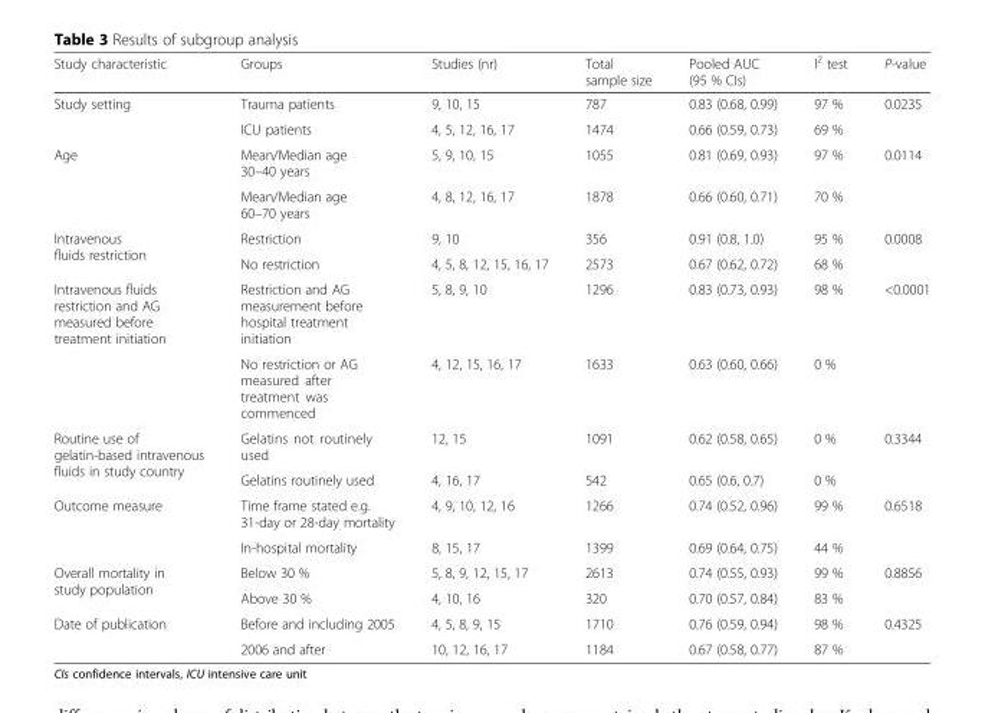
<table><thead><tr><td>Study characteristic</td><td>Groups</td><td>Studies (nr)</td><td>Total sample size</td><td>Pooled AUC (95 % CIs)</td><td>I<sup>2</sup> test</td><td>P-value</td></tr></thead><tbody><tr><td rowspan="2">Study setting</td><td>Trauma patients</td><td>9, 10, 15</td><td>787</td><td>0.83 (0.68, 0.99)</td><td>97 %</td><td rowspan="2">0.0235</td></tr><tr><td>ICU patients</td><td>4, 5, 12, 16, 17</td><td>1474</td><td>0.66 (0.59, 0.73)</td><td>69 %</td></tr><tr><td rowspan="2">Age</td><td>Mean/Median age 30–40 years</td><td>5, 9, 10, 15</td><td>1055</td><td>0.81 (0.69, 0.93)</td><td>97 %</td><td rowspan="2">0.0114</td></tr><tr><td>Mean/Median age 60–70 years</td><td>4, 8, 12, 16, 17</td><td>1878</td><td>0.66 (0.60, 0.71)</td><td>70 %</td></tr><tr><td rowspan="2">Intravenous fluids restriction</td><td>Restriction</td><td>9, 10</td><td>356</td><td>0.91 (0.8, 1.0)</td><td>95 %</td><td rowspan="2">0.0008</td></tr><tr><td>No restriction</td><td>4, 5, 8, 12, 15, 16, 17</td><td>2573</td><td>0.67 (0.62, 0.72)</td><td>68 %</td></tr><tr><td rowspan="2">Intravenous fluids restriction and AG measured before treatment initiation</td><td>Restriction and AG measurement before hospital treatment initiation</td><td>5, 8, 9, 10</td><td>1296</td><td>0.83 (0.73, 0.93)</td><td>98 %</td><td rowspan="2">&lt;0.0001</td></tr><tr><td>No restriction or AG measured after treatment was commenced</td><td>4, 12, 15, 16, 17</td><td>1633</td><td>0.63 (0.60, 0.66)</td><td>0 %</td></tr><tr><td rowspan="2">Routine use of gelatin-based intravenous fluids in study country</td><td>Gelatins not routinely used</td><td>12, 15</td><td>1091</td><td>0.62 (0.58, 0.65)</td><td>0 %</td><td rowspan="2">0.3344</td></tr><tr><td>Gelatins routinely used</td><td>4, 16, 17</td><td>542</td><td>0.65 (0.6, 0.7)</td><td>0 %</td></tr><tr><td rowspan="2">Outcome measure</td><td>Time frame stated e.g. 31-day or 28-day mortality</td><td>4, 9, 10, 12, 16</td><td>1266</td><td>0.74 (0.52, 0.96)</td><td>99 %</td><td rowspan="2">0.6518</td></tr><tr><td>In-hospital mortality</td><td>8, 15, 17</td><td>1399</td><td>0.69 (0.64, 0.75)</td><td>44 %</td></tr><tr><td rowspan="2">Overall mortality in study population</td><td>Below 30 %</td><td>5, 8, 9, 12, 15, 17</td><td>2613</td><td>0.74 (0.55, 0.93)</td><td>99 %</td><td rowspan="2">0.8856</td></tr><tr><td>Above 30 %</td><td>4, 10, 16</td><td>320</td><td>0.70 (0.57, 0.84)</td><td>83 %</td></tr><tr><td rowspan="2">Date of publication</td><td>Before and including 2005</td><td>4, 5, 8, 9, 15</td><td>1710</td><td>0.76 (0.59, 0.94)</td><td>98 %</td><td rowspan="2">0.4325</td></tr><tr><td>2006 and after</td><td>10, 12, 16, 17</td><td>1184</td><td>0.67 (0.58, 0.77)</td><td>87 %</td></tr></tbody></table>